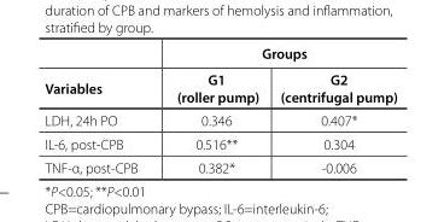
<table><thead><tr><td rowspan="2">Variables</td><td colspan="2">Groups</td></tr><tr><td>G1 (roller pump)</td><td>G2 (centrifugal pump)</td></tr></thead><tbody><tr><td>LDH, 24h PO</td><td>0.346</td><td>0.407*</td></tr><tr><td>IL-6, post-CPB</td><td>0.516**</td><td>0.304</td></tr><tr><td>TNF-α, post-CPB</td><td>0.382*</td><td>-0.006</td></tr></tbody></table>